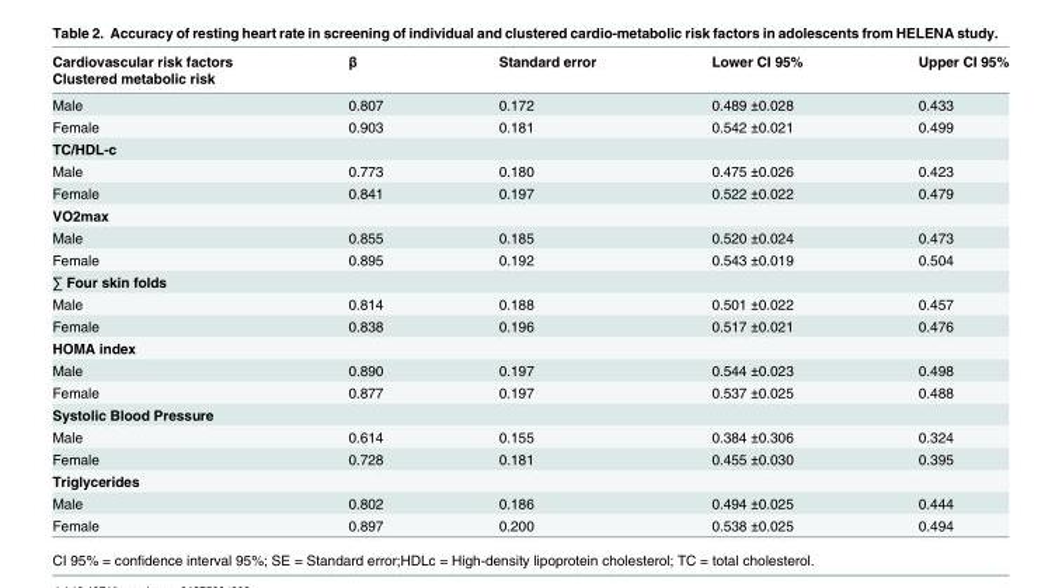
<table><thead><tr><td rowspan="2">Cardiovascular risk factors Clustered metabolic risk</td><td rowspan="2">β</td><td rowspan="2">Standard error</td><td rowspan="2">Lower CI 95%</td><td rowspan="2">Upper CI 95%</td></tr><tr></tr></thead><tbody><tr><td>Male</td><td>0.807</td><td>0.172</td><td>0.489 ±0.028</td><td>0.433</td></tr><tr><td>Female</td><td>0.903</td><td>0.181</td><td>0.542 ±0.021</td><td>0.499</td></tr><tr><td colspan="5">TC/HDL-c</td></tr><tr><td>Male</td><td>0.773</td><td>0.180</td><td>0.475 ±0.026</td><td>0.423</td></tr><tr><td>Female</td><td>0.841</td><td>0.197</td><td>0.522 ±0.022</td><td>0.479</td></tr><tr><td colspan="5">VO2max</td></tr><tr><td>Male</td><td>0.855</td><td>0.185</td><td>0.520 ±0.024</td><td>0.473</td></tr><tr><td>Female</td><td>0.895</td><td>0.192</td><td>0.543 ±0.019</td><td>0.504</td></tr><tr><td colspan="5">∑ Four skin folds</td></tr><tr><td>Male</td><td>0.814</td><td>0.188</td><td>0.501 ±0.022</td><td>0.457</td></tr><tr><td>Female</td><td>0.838</td><td>0.196</td><td>0.517 ±0.021</td><td>0.476</td></tr><tr><td colspan="5">HOMA index</td></tr><tr><td>Male</td><td>0.890</td><td>0.197</td><td>0.544 ±0.023</td><td>0.498</td></tr><tr><td>Female</td><td>0.877</td><td>0.197</td><td>0.537 ±0.025</td><td>0.488</td></tr><tr><td colspan="5">Systolic Blood Pressure</td></tr><tr><td>Male</td><td>0.614</td><td>0.155</td><td>0.384 ±0.306</td><td>0.324</td></tr><tr><td>Female</td><td>0.728</td><td>0.181</td><td>0.455 ±0.030</td><td>0.395</td></tr><tr><td colspan="5">Triglycerides</td></tr><tr><td>Male</td><td>0.802</td><td>0.186</td><td>0.494 ±0.025</td><td>0.444</td></tr><tr><td>Female</td><td>0.897</td><td>0.200</td><td>0.538 ±0.025</td><td>0.494</td></tr></tbody></table>